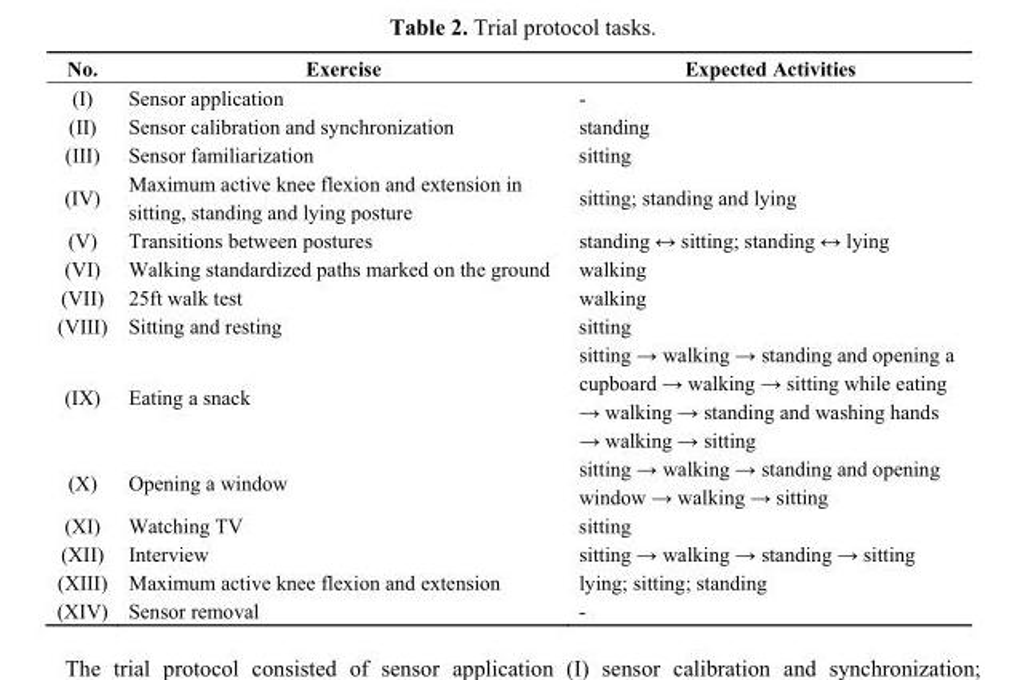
<table><thead><tr><td>No.</td><td>Exercise</td><td>Expected Activities</td></tr></thead><tbody><tr><td>(I)</td><td>Sensor application</td><td>-</td></tr><tr><td>(II)</td><td>Sensor calibration and synchronization</td><td>standing</td></tr><tr><td>(III)</td><td>Sensor familiarization</td><td>sitting</td></tr><tr><td>(IV)</td><td>Maximum active knee flexion and extension in sitting, standing and lying posture</td><td>sitting; standing and lying</td></tr><tr><td>(V)</td><td>Transitions between postures</td><td>standing ↔ sitting; standing ↔ lying</td></tr><tr><td>(VI)</td><td>Walking standardized paths marked on the ground</td><td>walking</td></tr><tr><td>(VII)</td><td>25ft walk test</td><td>walking</td></tr><tr><td>(VIII)</td><td>Sitting and resting</td><td>sitting</td></tr><tr><td>(IX)</td><td>Eating a snack</td><td>sitting → walking → standing and opening a cupboard → walking → sitting while eating → walking → standing and washing hands → walking → sitting</td></tr><tr><td>(X)</td><td>Opening a window</td><td>sitting → walking → standing and opening window → walking → sitting</td></tr><tr><td>(XI)</td><td>Watching TV</td><td>sitting</td></tr><tr><td>(XII)</td><td>Interview</td><td>sitting → walking → standing → sitting</td></tr><tr><td>(XIII)</td><td>Maximum active knee flexion and extension</td><td>lying; sitting; standing</td></tr><tr><td>(XIV)</td><td>Sensor removal</td><td>-</td></tr></tbody></table>